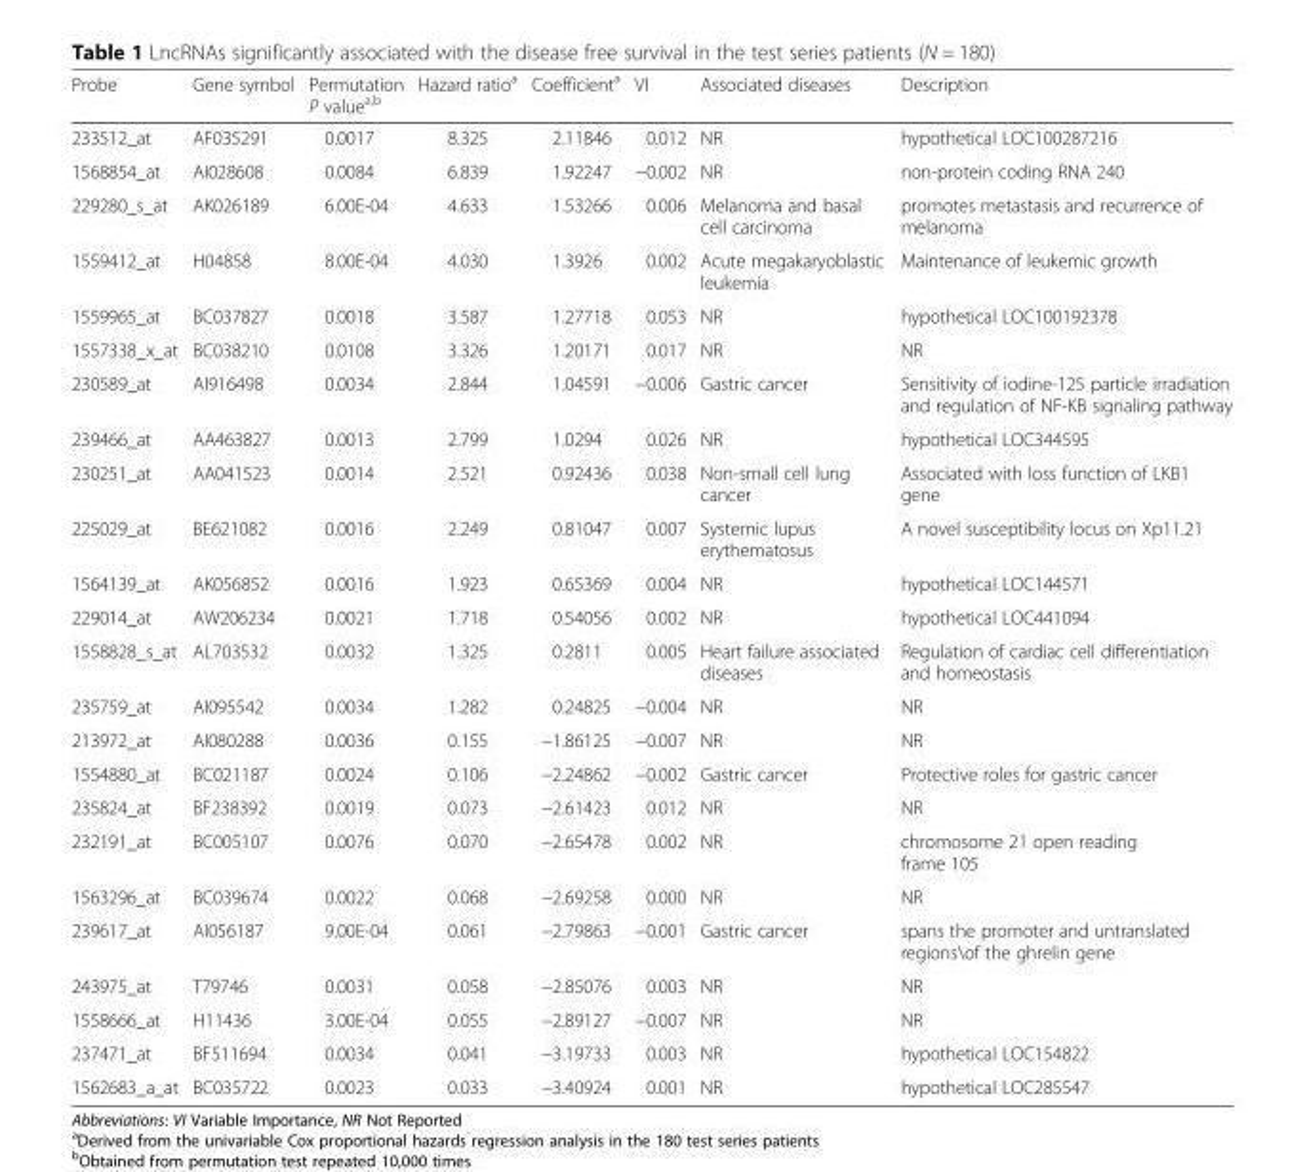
<table><thead><tr><td>Probe</td><td>Gene symbol</td><td>Permutation P value<sup>a,b</sup></td><td>Hazard ratio<sup>a</sup></td><td>Coefficient<sup>a</sup></td><td>VI</td><td>Associated diseases</td><td>Description</td></tr></thead><tbody><tr><td>233512_at</td><td>AF035291</td><td>0.0017</td><td>8.325</td><td>2.11846</td><td>0.012</td><td>NR</td><td>hypothetical LOC100287216</td></tr><tr><td>1568854_at</td><td>AI028608</td><td>0.0084</td><td>6.839</td><td>1.92247</td><td>−0.002</td><td>NR</td><td>non-protein coding RNA 240</td></tr><tr><td>229280_s_at</td><td>AK026189</td><td>6.00E-04</td><td>4.633</td><td>1.53266</td><td>0.006</td><td>Melanoma and basal cell carcinoma</td><td>promotes metastasis and recurrence of melanoma</td></tr><tr><td>1559412_at</td><td>H04858</td><td>8.00E-04</td><td>4.030</td><td>1.3926</td><td>0.002</td><td>Acute megakaryoblastic leukemia</td><td>Maintenance of leukemic growth</td></tr><tr><td>1559965_at</td><td>BC037827</td><td>0.0018</td><td>3.587</td><td>1.27718</td><td>0.053</td><td>NR</td><td>hypothetical LOC100192378</td></tr><tr><td>1557338_x_at</td><td>BC038210</td><td>0.0108</td><td>3.326</td><td>1.20171</td><td>0.017</td><td>NR</td><td>NR</td></tr><tr><td>230589_at</td><td>AI916498</td><td>0.0034</td><td>2.844</td><td>1.04591</td><td>−0.006</td><td>Gastric cancer</td><td>Sensitivity of iodine-125 particle irradiation and regulation of NF-KB signaling pathway</td></tr><tr><td>239466_at</td><td>AA463827</td><td>0.0013</td><td>2.799</td><td>1.0294</td><td>0.026</td><td>NR</td><td>hypothetical LOC344595</td></tr><tr><td>230251_at</td><td>AA041523</td><td>0.0014</td><td>2.521</td><td>0.92436</td><td>0.038</td><td>Non-small cell lung cancer</td><td>Associated with loss function of LKB1 gene</td></tr><tr><td>225029_at</td><td>BE621082</td><td>0.0016</td><td>2.249</td><td>0.81047</td><td>0.007</td><td>Systemic lupus erythematosus</td><td>A novel susceptibility locus on Xp11.21</td></tr><tr><td>1564139_at</td><td>AK056852</td><td>0.0016</td><td>1.923</td><td>0.65369</td><td>0.004</td><td>NR</td><td>hypothetical LOC144571</td></tr><tr><td>229014_at</td><td>AW206234</td><td>0.0021</td><td>1.718</td><td>0.54056</td><td>0.002</td><td>NR</td><td>hypothetical LOC441094</td></tr><tr><td>1558828_s_at</td><td>AL703532</td><td>0.0032</td><td>1.325</td><td>0.2811</td><td>0.005</td><td>Heart failure associated diseases</td><td>Regulation of cardiac cell differentiation and homeostasis</td></tr><tr><td>235759_at</td><td>AI095542</td><td>0.0034</td><td>1.282</td><td>0.24825</td><td>−0.004</td><td>NR</td><td>NR</td></tr><tr><td>213972_at</td><td>AI080288</td><td>0.0036</td><td>0.155</td><td>−1.86125</td><td>−0.007</td><td>NR</td><td>NR</td></tr><tr><td>1554880_at</td><td>BC021187</td><td>0.0024</td><td>0.106</td><td>−2.24862</td><td>−0.002</td><td>Gastric cancer</td><td>Protective roles for gastric cancer</td></tr><tr><td>235824_at</td><td>BF238392</td><td>0.0019</td><td>0.073</td><td>−2.61423</td><td>0.012</td><td>NR</td><td>NR</td></tr><tr><td>232191_at</td><td>BC005107</td><td>0.0076</td><td>0.070</td><td>−2.65478</td><td>0.002</td><td>NR</td><td>chromosome 21 open reading frame 105</td></tr><tr><td>1563296_at</td><td>BC039674</td><td>0.0022</td><td>0.068</td><td>−2.69258</td><td>0.000</td><td>NR</td><td>NR</td></tr><tr><td>239617_at</td><td>AI056187</td><td>9.00E-04</td><td>0.061</td><td>−2.79863</td><td>−0.001</td><td>Gastric cancer</td><td>spans the promoter and untranslated regions\of the ghrelin gene</td></tr><tr><td>243975_at</td><td>T79746</td><td>0.0031</td><td>0.058</td><td>−2.85076</td><td>0.003</td><td>NR</td><td>NR</td></tr><tr><td>1558666_at</td><td>H11436</td><td>3.00E-04</td><td>0.055</td><td>−2.89127</td><td>−0.007</td><td>NR</td><td>NR</td></tr><tr><td>237471_at</td><td>BF511694</td><td>0.0034</td><td>0.041</td><td>−3.19733</td><td>0.003</td><td>NR</td><td>hypothetical LOC154822</td></tr><tr><td>1562683_a_at</td><td>BC035722</td><td>0.0023</td><td>0.033</td><td>−3.40924</td><td>0.001</td><td>NR</td><td>hypothetical LOC285547</td></tr></tbody></table>